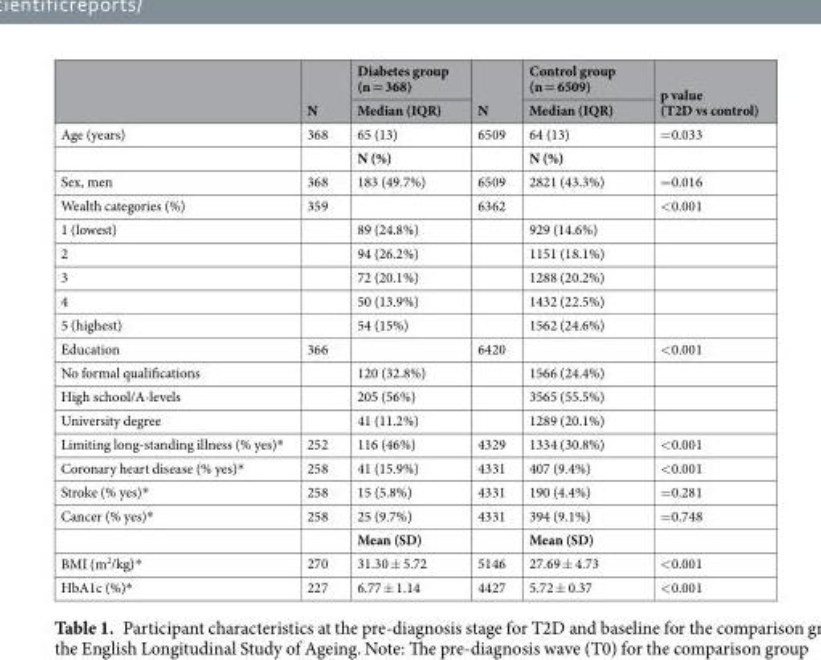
<table><thead><tr><td rowspan="2"></td><td rowspan="2">N</td><td rowspan="2">Diabetes group (n = 368) Median (IQR)</td><td rowspan="2">N</td><td rowspan="2">Control group (n = 6509) Median (IQR)</td><td rowspan="2">p value (T2D vs control)</td></tr><tr></tr></thead><tbody><tr><td rowspan="2">Age (years)</td><td>368</td><td>65 (13)</td><td>6509</td><td>64 (13)</td><td>=0.033</td></tr><tr><td></td><td>N (%)</td><td></td><td>N (%)</td><td></td></tr><tr><td>Sex, men</td><td>368</td><td>183 (49.7%)</td><td>6509</td><td>2821 (43.3%)</td><td>=0.016</td></tr><tr><td>Wealth categories (%)</td><td>359</td><td></td><td>6362</td><td></td><td>&lt;0.001</td></tr><tr><td>1 (lowest)</td><td></td><td>89 (24.8%)</td><td></td><td>929 (14.6%)</td><td></td></tr><tr><td>2</td><td></td><td>94 (26.2%)</td><td></td><td>1151 (18.1%)</td><td></td></tr><tr><td>3</td><td></td><td>72 (20.1%)</td><td></td><td>1288 (20.2%)</td><td></td></tr><tr><td>4</td><td></td><td>50 (13.9%)</td><td></td><td>1432 (22.5%)</td><td></td></tr><tr><td>5 (highest)</td><td></td><td>54 (15%)</td><td></td><td>1562 (24.6%)</td><td></td></tr><tr><td>Education</td><td>366</td><td></td><td>6420</td><td></td><td>&lt;0.001</td></tr><tr><td>No formal qualifications</td><td></td><td>120 (32.8%)</td><td></td><td>1566 (24.4%)</td><td></td></tr><tr><td>High school/A-levels</td><td></td><td>205 (56%)</td><td></td><td>3565 (55.5%)</td><td></td></tr><tr><td>University degree</td><td></td><td>41 (11.2%)</td><td></td><td>1289 (20.1%)</td><td></td></tr><tr><td>Limiting long-standing illness (% yes)*</td><td>252</td><td>116 (46%)</td><td>4329</td><td>1334 (30.8%)</td><td>&lt;0.001</td></tr><tr><td>Coronary heart disease (% yes)*</td><td>258</td><td>41 (15.9%)</td><td>4331</td><td>407 (9.4%)</td><td>&lt;0.001</td></tr><tr><td>Stroke (% yes)*</td><td>258</td><td>15 (5.8%)</td><td>4331</td><td>190 (4.4%)</td><td>=0.281</td></tr><tr><td rowspan="2">Cancer (% yes)*</td><td>258</td><td>25 (9.7%)</td><td>4331</td><td>394 (9.1%)</td><td>=0.748</td></tr><tr><td></td><td>Mean (SD)</td><td></td><td>Mean (SD)</td><td></td></tr><tr><td>BMI (m<sup>2</sup>/kg)*</td><td>270</td><td>31.30 ± 5.72</td><td>5146</td><td>27.69 ± 4.73</td><td>&lt;0.001</td></tr><tr><td>HbA1c (%)*</td><td>227</td><td>6.77 ± 1.14</td><td>4427</td><td>5.72 ± 0.37</td><td>&lt;0.001</td></tr></tbody></table>